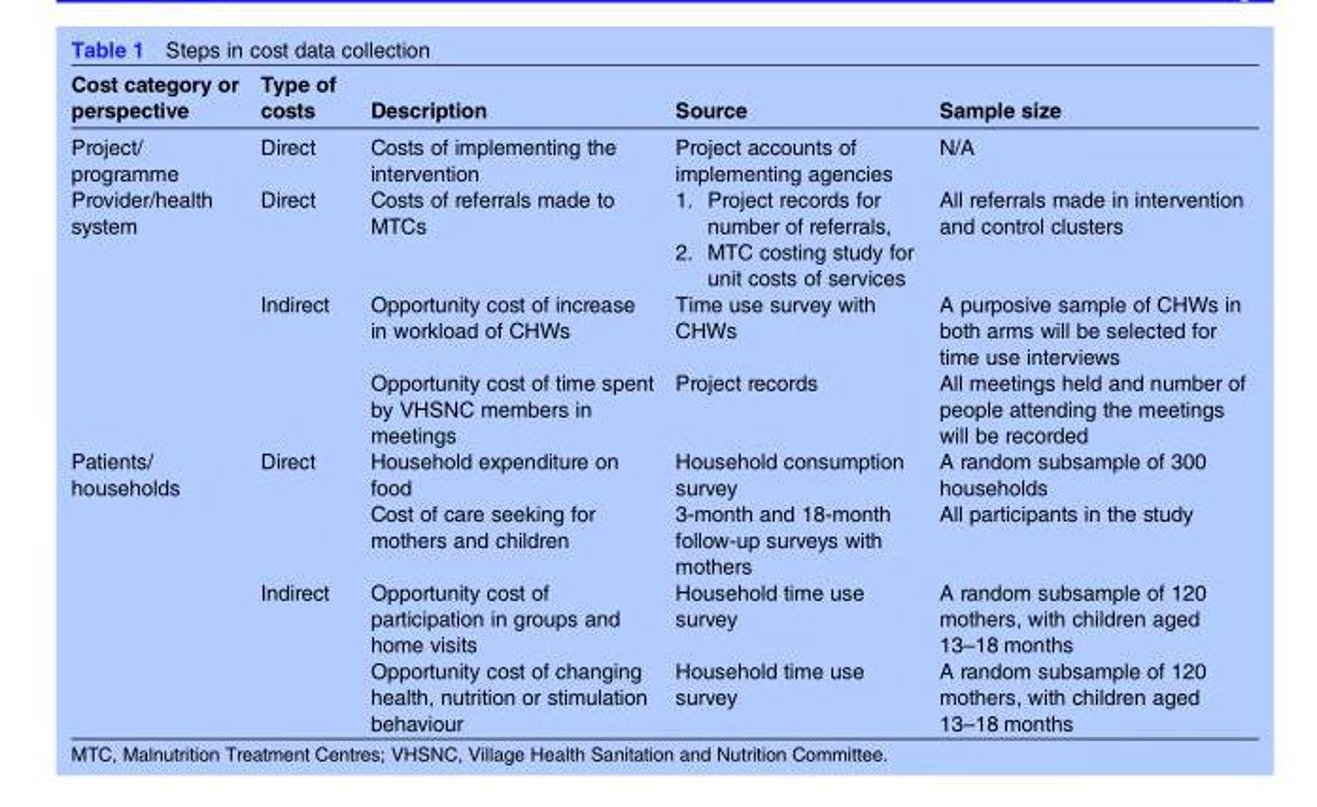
<table><thead><tr><td>Cost category or perspective</td><td>Type of costs</td><td>Description</td><td>Source</td><td>Sample size</td></tr></thead><tbody><tr><td>Project/ programme</td><td>Direct</td><td>Costs of implementing the intervention</td><td>Project accounts of implementing agencies</td><td>N/A</td></tr><tr><td rowspan="3">Provider/health system</td><td>Direct</td><td>Costs of referrals made to MTCs</td><td>1. Project records for number of referrals, 2. MTC costing study for unit costs of services</td><td>All referrals made in intervention and control clusters</td></tr><tr><td rowspan="2">Indirect</td><td>Opportunity cost of increase in workload of CHWs</td><td>Time use survey with CHWs</td><td>A purposive sample of CHWs in both arms will be selected for time use interviews</td></tr><tr><td>Opportunity cost of time spent by VHSNC members in meetings</td><td>Project records</td><td>All meetings held and number of people attending the meetings will be recorded</td></tr><tr><td rowspan="4">Patients/ households</td><td rowspan="2">Direct</td><td>Household expenditure on food</td><td>Household consumption survey</td><td>A random subsample of 300 households</td></tr><tr><td>Cost of care seeking for mothers and children</td><td>3-month and 18-month follow-up surveys with mothers</td><td>All participants in the study</td></tr><tr><td rowspan="2">Indirect</td><td>Opportunity cost of participation in groups and home visits</td><td>Household time use survey</td><td>A random subsample of 120 mothers, with children aged 13–18 months</td></tr><tr><td>Opportunity cost of changing health, nutrition or stimulation behaviour</td><td>Household time use survey</td><td>A random subsample of 120 mothers, with children aged 13–18 months</td></tr></tbody></table>